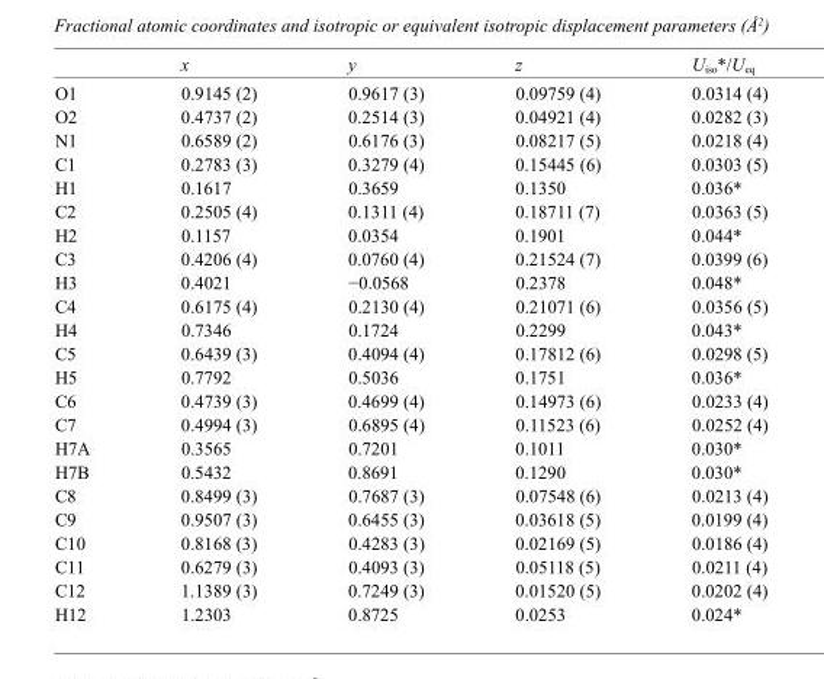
<table><thead><tr><td></td><td>x</td><td>y</td><td>z</td><td>U<sub>iso</sub>*/U<sub>eq</sub></td></tr></thead><tbody><tr><td>O1</td><td>0.9145 (2)</td><td>0.9617 (3)</td><td>0.09759 (4)</td><td>0.0314 (4)</td></tr><tr><td>O2</td><td>0.4737 (2)</td><td>0.2514 (3)</td><td>0.04921 (4)</td><td>0.0282 (3)</td></tr><tr><td>N1</td><td>0.6589 (2)</td><td>0.6176 (3)</td><td>0.08217 (5)</td><td>0.0218 (4)</td></tr><tr><td>C1</td><td>0.2783 (3)</td><td>0.3279 (4)</td><td>0.15445 (6)</td><td>0.0303 (5)</td></tr><tr><td>H1</td><td>0.1617</td><td>0.3659</td><td>0.1350</td><td>0.036*</td></tr><tr><td>C2</td><td>0.2505 (4)</td><td>0.1311 (4)</td><td>0.18711 (7)</td><td>0.0363 (5)</td></tr><tr><td>H2</td><td>0.1157</td><td>0.0354</td><td>0.1901</td><td>0.044*</td></tr><tr><td>C3</td><td>0.4206 (4)</td><td>0.0760 (4)</td><td>0.21524 (7)</td><td>0.0399 (6)</td></tr><tr><td>H3</td><td>0.4021</td><td>−0.0568</td><td>0.2378</td><td>0.048*</td></tr><tr><td>C4</td><td>0.6175 (4)</td><td>0.2130 (4)</td><td>0.21071 (6)</td><td>0.0356 (5)</td></tr><tr><td>H4</td><td>0.7346</td><td>0.1724</td><td>0.2299</td><td>0.043*</td></tr><tr><td>C5</td><td>0.6439 (3)</td><td>0.4094 (4)</td><td>0.17812 (6)</td><td>0.0298 (5)</td></tr><tr><td>H5</td><td>0.7792</td><td>0.5036</td><td>0.1751</td><td>0.036*</td></tr><tr><td>C6</td><td>0.4739 (3)</td><td>0.4699 (4)</td><td>0.14973 (6)</td><td>0.0233 (4)</td></tr><tr><td>C7</td><td>0.4994 (3)</td><td>0.6895 (4)</td><td>0.11523 (6)</td><td>0.0252 (4)</td></tr><tr><td>H7A</td><td>0.3565</td><td>0.7201</td><td>0.1011</td><td>0.030*</td></tr><tr><td>H7B</td><td>0.5432</td><td>0.8691</td><td>0.1290</td><td>0.030*</td></tr><tr><td>C8</td><td>0.8499 (3)</td><td>0.7687 (3)</td><td>0.07548 (6)</td><td>0.0213 (4)</td></tr><tr><td>C9</td><td>0.9507 (3)</td><td>0.6455 (3)</td><td>0.03618 (5)</td><td>0.0199 (4)</td></tr><tr><td>C10</td><td>0.8168 (3)</td><td>0.4283 (3)</td><td>0.02169 (5)</td><td>0.0186 (4)</td></tr><tr><td>C11</td><td>0.6279 (3)</td><td>0.4093 (3)</td><td>0.05118 (5)</td><td>0.0211 (4)</td></tr><tr><td>C12</td><td>1.1389 (3)</td><td>0.7249 (3)</td><td>0.01520 (5)</td><td>0.0202 (4)</td></tr><tr><td>H12</td><td>1.2303</td><td>0.8725</td><td>0.0253</td><td>0.024*</td></tr></tbody></table>